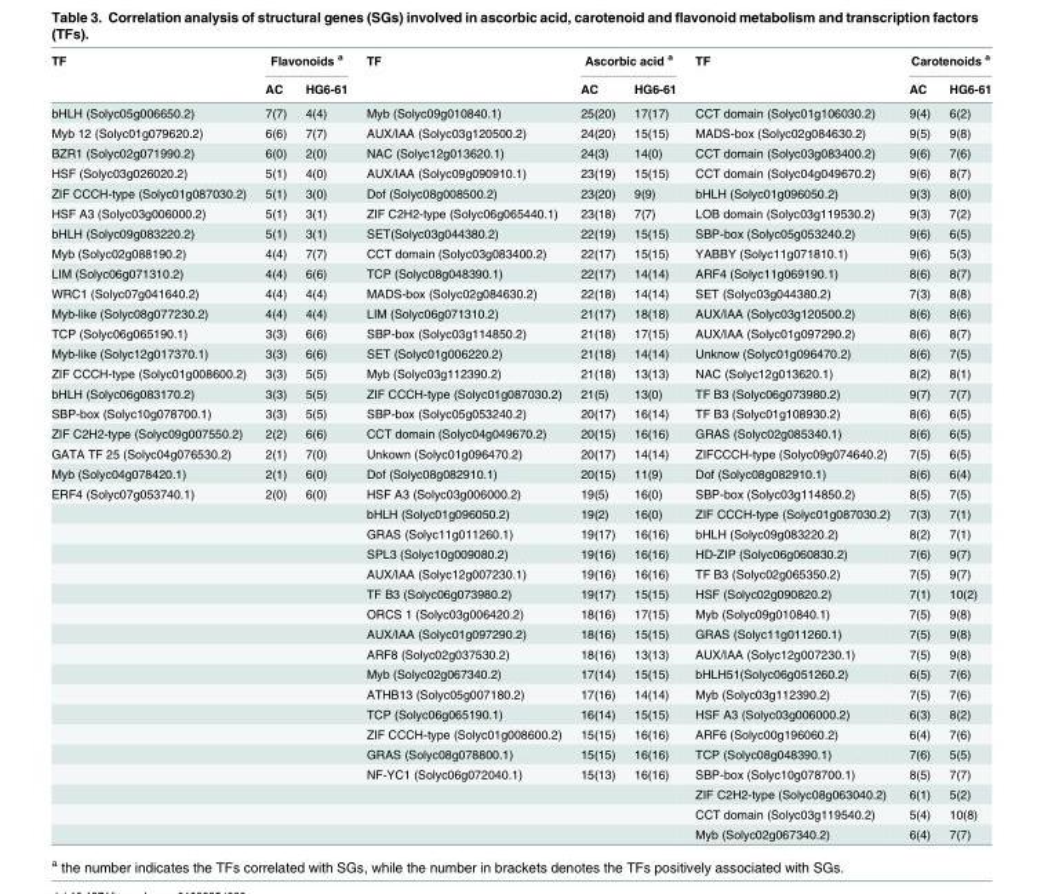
<table><thead><tr><td rowspan="2">TF</td><td colspan="2">Flavonoids <sup>a</sup></td><td rowspan="2">TF</td><td colspan="2">Ascorbic acid <sup>a</sup></td><td rowspan="2">TF</td><td colspan="2">Carotenoids <sup>a</sup></td></tr><tr><td>AC</td><td>HG6-61</td><td>AC</td><td>HG6-61</td><td>AC</td><td>HG6-61</td></tr></thead><tbody><tr><td>bHLH (Solyc05g006650.2)</td><td>7(7)</td><td>4(4)</td><td>Myb (Solyc09g010840.1)</td><td>25(20)</td><td>17(17)</td><td>CCT domain (Solyc01g106030.2)</td><td>9(4)</td><td>6(2)</td></tr><tr><td>Myb 12 (Solyc01g079620.2)</td><td>6(6)</td><td>7(7)</td><td>AUX/IAA (Solyc03g120500.2)</td><td>24(20)</td><td>15(15)</td><td>MADS-box (Solyc02g084630.2)</td><td>9(5)</td><td>9(8)</td></tr><tr><td>BZR1 (Solyc02g071990.2)</td><td>6(0)</td><td>2(0)</td><td>NAC (Solyc12g013620.1)</td><td>24(3)</td><td>14(0)</td><td>CCT domain (Solyc03g083400.2)</td><td>9(6)</td><td>7(6)</td></tr><tr><td>HSF (Solyc03g026020.2)</td><td>5(1)</td><td>4(0)</td><td>AUX/IAA (Solyc09g090910.1)</td><td>23(19)</td><td>15(15)</td><td>CCT domain (Solyc04g049670.2)</td><td>9(6)</td><td>8(7)</td></tr><tr><td>ZIF CCCH-type (Solyc01g087030.2)</td><td>5(1)</td><td>3(0)</td><td>Dof (Solyc08g008500.2)</td><td>23(20)</td><td>9(9)</td><td>bHLH (Solyc01g096050.2)</td><td>9(3)</td><td>8(0)</td></tr><tr><td>HSF A3 (Solyc03g006000.2)</td><td>5(1)</td><td>3(1)</td><td>ZIF C2H2-type (Solyc06g065440.1)</td><td>23(18)</td><td>7(7)</td><td>LOB domain (Solyc03g119530.2)</td><td>9(3)</td><td>7(2)</td></tr><tr><td>bHLH (Solyc09g083220.2)</td><td>5(1)</td><td>3(1)</td><td>SET(Solyc03g044380.2)</td><td>22(19)</td><td>15(15)</td><td>SBP-box (Solyc05g053240.2)</td><td>9(6)</td><td>6(5)</td></tr><tr><td>Myb (Solyc02g088190.2)</td><td>4(4)</td><td>7(7)</td><td>CCT domain (Solyc03g083400.2)</td><td>22(17)</td><td>15(15)</td><td>YABBY (Solyc11g071810.1)</td><td>9(6)</td><td>5(3)</td></tr><tr><td>LIM (Solyc06g071310.2)</td><td>4(4)</td><td>6(6)</td><td>TCP (Solyc08g048390.1)</td><td>22(17)</td><td>14(14)</td><td>ARF4 (Solyc11g069190.1)</td><td>8(6)</td><td>8(7)</td></tr><tr><td>WRC1 (Solyc07g041640.2)</td><td>4(4)</td><td>4(4)</td><td>MADS-box (Solyc02g084630.2)</td><td>22(18)</td><td>14(14)</td><td>SET (Solyc03g044380.2)</td><td>7(3)</td><td>8(8)</td></tr><tr><td>Myb-like (Solyc08g077230.2)</td><td>4(4)</td><td>4(4)</td><td>LIM (Solyc06g071310.2)</td><td>21(17)</td><td>18(18)</td><td>AUX/IAA (Solyc03g120500.2)</td><td>8(6)</td><td>8(6)</td></tr><tr><td>TCP (Solyc06g065190.1)</td><td>3(3)</td><td>6(6)</td><td>SBP-box (Solyc03g114850.2)</td><td>21(18)</td><td>17(15)</td><td>AUX/IAA (Solyc01g097290.2)</td><td>8(6)</td><td>8(7)</td></tr><tr><td>Myb-like (Solyc12g017370.1)</td><td>3(3)</td><td>6(6)</td><td>SET (Solyc01g006220.2)</td><td>21(18)</td><td>14(14)</td><td>Unknow (Solyc01g096470.2)</td><td>8(6)</td><td>7(5)</td></tr><tr><td>ZIF CCCH-type (Solyc01g008600.2)</td><td>3(3)</td><td>5(5)</td><td>Myb (Solyc03g112390.2)</td><td>21(18)</td><td>13(13)</td><td>NAC (Solyc12g013620.1)</td><td>8(2)</td><td>8(1)</td></tr><tr><td>bHLH (Solyc06g083170.2)</td><td>3(3)</td><td>5(5)</td><td>ZIF CCCH-type (Solyc01g087030.2)</td><td>21(5)</td><td>13(0)</td><td>TF B3 (Solyc06g073980.2)</td><td>9(7)</td><td>7(7)</td></tr><tr><td>SBP-box (Solyc10g078700.1)</td><td>3(3)</td><td>5(5)</td><td>SBP-box (Solyc05g053240.2)</td><td>20(17)</td><td>16(14)</td><td>TF B3 (Solyc01g108930.2)</td><td>8(6)</td><td>6(5)</td></tr><tr><td>ZIF C2H2-type (Solyc09g007550.2)</td><td>2(2)</td><td>6(6)</td><td>CCT domain (Solyc04g049670.2)</td><td>20(15)</td><td>16(16)</td><td>GRAS (Solyc02g085340.1)</td><td>8(6)</td><td>6(5)</td></tr><tr><td>GATA TF 25 (Solyc04g076530.2)</td><td>2(1)</td><td>7(0)</td><td>Unkown (Solyc01g096470.2)</td><td>20(17)</td><td>14(14)</td><td>ZIFCCCH-type (Solyc09g074640.2)</td><td>7(5)</td><td>6(5)</td></tr><tr><td>Myb (Solyc04g078420.1)</td><td>2(1)</td><td>6(0)</td><td>Dof (Solyc08g082910.1)</td><td>20(15)</td><td>11(9)</td><td>Dof (Solyc08g082910.1)</td><td>8(6)</td><td>6(4)</td></tr><tr><td rowspan="18">ERF4 (Solyc07g053740.1)</td><td>2(0)</td><td>6(0)</td><td>HSF A3 (Solyc03g006000.2)</td><td>19(5)</td><td>16(0)</td><td>SBP-box (Solyc03g114850.2)</td><td>8(5)</td><td>7(5)</td></tr><tr><td></td><td></td><td>bHLH (Solyc01g096050.2)</td><td>19(2)</td><td>16(0)</td><td>ZIF CCCH-type (Solyc01g087030.2)</td><td>7(3)</td><td>7(1)</td></tr><tr><td></td><td></td><td>GRAS (Solyc11g011260.1)</td><td>19(17)</td><td>16(16)</td><td>bHLH (Solyc09g083220.2)</td><td>8(2)</td><td>7(1)</td></tr><tr><td></td><td></td><td>SPL3 (Solyc10g009080.2)</td><td>19(16)</td><td>16(16)</td><td>HD-ZIP (Solyc06g060830.2)</td><td>7(6)</td><td>9(7)</td></tr><tr><td></td><td></td><td>AUX/IAA (Solyc12g007230.1)</td><td>19(16)</td><td>16(16)</td><td>TF B3 (Solyc02g065350.2)</td><td>7(5)</td><td>9(7)</td></tr><tr><td></td><td></td><td>TF B3 (Solyc06g073980.2)</td><td>19(17)</td><td>15(15)</td><td>HSF (Solyc02g090820.2)</td><td>7(1)</td><td>10(2)</td></tr><tr><td></td><td></td><td>ORCS 1 (Solyc03g006420.2)</td><td>18(16)</td><td>17(15)</td><td>Myb (Solyc09g010840.1)</td><td>7(5)</td><td>9(8)</td></tr><tr><td></td><td></td><td>AUX/IAA (Solyc01g097290.2)</td><td>18(16)</td><td>15(15)</td><td>GRAS (Solyc11g011260.1)</td><td>7(5)</td><td>9(8)</td></tr><tr><td></td><td></td><td>ARF8 (Solyc02g037530.2)</td><td>18(16)</td><td>13(13)</td><td>AUX/IAA (Solyc12g007230.1)</td><td>7(5)</td><td>9(8)</td></tr><tr><td></td><td></td><td>Myb (Solyc02g067340.2)</td><td>17(14)</td><td>15(15)</td><td>bHLH51(Solyc06g051260.2)</td><td>6(5)</td><td>7(6)</td></tr><tr><td></td><td></td><td>ATHB13 (Solyc05g007180.2)</td><td>17(16)</td><td>14(14)</td><td>Myb (Solyc03g112390.2)</td><td>7(5)</td><td>7(6)</td></tr><tr><td></td><td></td><td>TCP (Solyc06g065190.1)</td><td>16(14)</td><td>15(15)</td><td>HSF A3 (Solyc03g006000.2)</td><td>6(3)</td><td>8(2)</td></tr><tr><td></td><td></td><td>ZIF CCCH-type (Solyc01g008600.2)</td><td>15(15)</td><td>16(16)</td><td>ARF6 (Solyc00g196060.2)</td><td>6(4)</td><td>7(6)</td></tr><tr><td></td><td></td><td>GRAS (Solyc08g078800.1)</td><td>15(15)</td><td>16(16)</td><td>TCP (Solyc08g048390.1)</td><td>7(6)</td><td>5(5)</td></tr><tr><td></td><td></td><td>NF-YC1 (Solyc06g072040.1)</td><td>15(13)</td><td>16(16)</td><td>SBP-box (Solyc10g078700.1)</td><td>8(5)</td><td>7(7)</td></tr><tr><td></td><td></td><td></td><td></td><td></td><td>ZIF C2H2-type (Solyc08g063040.2)</td><td>6(1)</td><td>5(2)</td></tr><tr><td></td><td></td><td></td><td></td><td></td><td>CCT domain (Solyc03g119540.2)</td><td>5(4)</td><td>10(8)</td></tr><tr><td></td><td></td><td></td><td></td><td></td><td>Myb (Solyc02g067340.2)</td><td>6(4)</td><td>7(7)</td></tr></tbody></table>